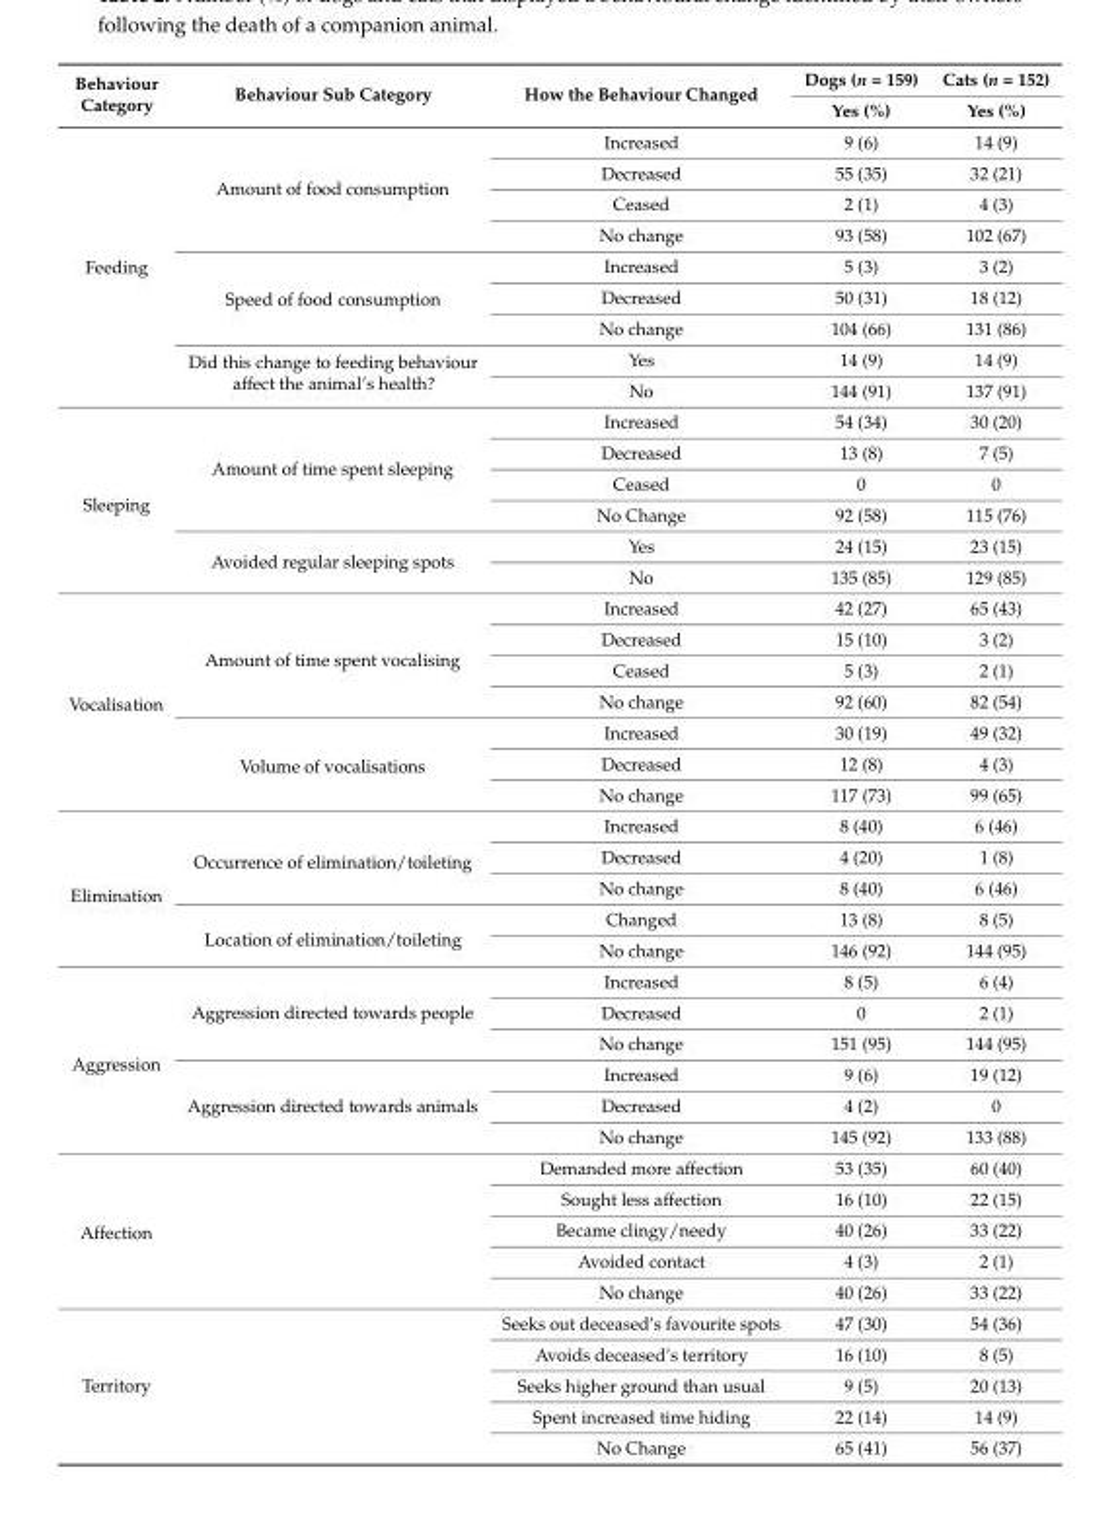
<table><thead><tr><td rowspan="2">Behaviour Category</td><td rowspan="2">Behaviour Sub Category</td><td rowspan="2">How the Behaviour Changed</td><td rowspan="2">Dogs (n = 159) Yes (%)</td><td rowspan="2">Cats (n = 152) Yes (%)</td></tr><tr></tr></thead><tbody><tr><td rowspan="9">Feeding</td><td rowspan="4">Amount of food consumption</td><td>Increased</td><td>9 (6)</td><td>14 (9)</td></tr><tr><td>Decreased</td><td>55 (35)</td><td>32 (21)</td></tr><tr><td>Ceased</td><td>2 (1)</td><td>4 (3)</td></tr><tr><td>No change</td><td>93 (58)</td><td>102 (67)</td></tr><tr><td rowspan="3">Speed of food consumption</td><td>Increased</td><td>5 (3)</td><td>3 (2)</td></tr><tr><td>Decreased</td><td>50 (31)</td><td>18 (12)</td></tr><tr><td>No change</td><td>104 (66)</td><td>131 (86)</td></tr><tr><td rowspan="2">Did this change to feeding behaviour affect the animal’s health?</td><td>Yes</td><td>14 (9)</td><td>14 (9)</td></tr><tr><td>No</td><td>144 (91)</td><td>137 (91)</td></tr><tr><td rowspan="6">Sleeping</td><td rowspan="4">Amount of time spent sleeping</td><td>Increased</td><td>54 (34)</td><td>30 (20)</td></tr><tr><td>Decreased</td><td>13 (8)</td><td>7 (5)</td></tr><tr><td>Ceased</td><td>0</td><td>0</td></tr><tr><td>No Change</td><td>92 (58)</td><td>115 (76)</td></tr><tr><td rowspan="2">Avoided regular sleeping spots</td><td>Yes</td><td>24 (15)</td><td>23 (15)</td></tr><tr><td>No</td><td>135 (85)</td><td>129 (85)</td></tr><tr><td rowspan="7">Vocalisation</td><td rowspan="4">Amount of time spent vocalising</td><td>Increased</td><td>42 (27)</td><td>65 (43)</td></tr><tr><td>Decreased</td><td>15 (10)</td><td>3 (2)</td></tr><tr><td>Ceased</td><td>5 (3)</td><td>2 (1)</td></tr><tr><td>No change</td><td>92 (60)</td><td>82 (54)</td></tr><tr><td rowspan="3">Volume of vocalisations</td><td>Increased</td><td>30 (19)</td><td>49 (32)</td></tr><tr><td>Decreased</td><td>12 (8)</td><td>4 (3)</td></tr><tr><td>No change</td><td>117 (73)</td><td>99 (65)</td></tr><tr><td rowspan="5">Elimination</td><td rowspan="3">Occurrence of elimination/toileting</td><td>Increased</td><td>8 (40)</td><td>6 (46)</td></tr><tr><td>Decreased</td><td>4 (20)</td><td>1 (8)</td></tr><tr><td>No change</td><td>8 (40)</td><td>6 (46)</td></tr><tr><td rowspan="2">Location of elimination/toileting</td><td>Changed</td><td>13 (8)</td><td>8 (5)</td></tr><tr><td>No change</td><td>146 (92)</td><td>144 (95)</td></tr><tr><td rowspan="6">Aggression</td><td rowspan="3">Aggression directed towards people</td><td>Increased</td><td>8 (5)</td><td>6 (4)</td></tr><tr><td>Decreased</td><td>0</td><td>2 (1)</td></tr><tr><td>No change</td><td>151 (95)</td><td>144 (95)</td></tr><tr><td rowspan="3">Aggression directed towards animals</td><td>Increased</td><td>9 (6)</td><td>19 (12)</td></tr><tr><td>Decreased</td><td>4 (2)</td><td>0</td></tr><tr><td>No change</td><td>145 (92)</td><td>133 (88)</td></tr><tr><td rowspan="5">Affection</td><td rowspan="5"></td><td>Demanded more affection</td><td>53 (35)</td><td>60 (40)</td></tr><tr><td>Sought less affection</td><td>16 (10)</td><td>22 (15)</td></tr><tr><td>Became clingy/needy</td><td>40 (26)</td><td>33 (22)</td></tr><tr><td>Avoided contact</td><td>4 (3)</td><td>2 (1)</td></tr><tr><td>No change</td><td>40 (26)</td><td>33 (22)</td></tr><tr><td rowspan="5">Territory</td><td rowspan="5"></td><td>Seeks out deceased’s favourite spots</td><td>47 (30)</td><td>54 (36)</td></tr><tr><td>Avoids deceased’s territory</td><td>16 (10)</td><td>8 (5)</td></tr><tr><td>Seeks higher ground than usual</td><td>9 (5)</td><td>20 (13)</td></tr><tr><td>Spent increased time hiding</td><td>22 (14)</td><td>14 (9)</td></tr><tr><td>No Change</td><td>65 (41)</td><td>56 (37)</td></tr></tbody></table>